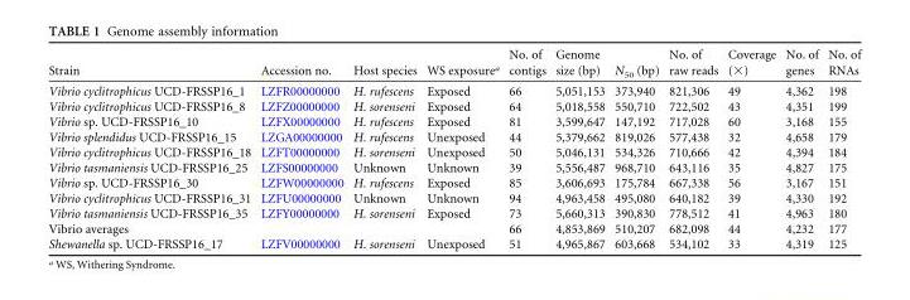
<table><thead><tr><td>Strain</td><td>Accession no.</td><td>Host species</td><td>WS exposure<sup>a</sup></td><td>No. of contigs</td><td>Genome size (bp)</td><td>N<sub>50</sub> (bp)</td><td>No. of raw reads</td><td>Coverage (×)</td><td>No. of genes</td><td>No. of RNAs</td></tr></thead><tbody><tr><td>Vibrio cyclitrophicus UCD-FRSSP16_1</td><td>LZFR00000000</td><td>H. rufescens</td><td>Exposed</td><td>66</td><td>5,051,153</td><td>373,940</td><td>821,306</td><td>49</td><td>4,362</td><td>198</td></tr><tr><td>Vibrio cyclitrophicus UCD-FRSSP16_8</td><td>LZFZ00000000</td><td>H. sorenseni</td><td>Exposed</td><td>64</td><td>5,018,558</td><td>550,710</td><td>722,502</td><td>43</td><td>4,351</td><td>199</td></tr><tr><td>Vibrio sp. UCD-FRSSP16_10</td><td>LZFX00000000</td><td>H. rufescens</td><td>Exposed</td><td>81</td><td>3,599,647</td><td>147,192</td><td>717,028</td><td>60</td><td>3,168</td><td>155</td></tr><tr><td>Vibrio splendidus UCD-FRSSP16_15</td><td>LZGA00000000</td><td>H. rufescens</td><td>Unexposed</td><td>44</td><td>5,379,662</td><td>819,026</td><td>577,438</td><td>32</td><td>4,658</td><td>179</td></tr><tr><td>Vibrio cyclitrophicus UCD-FRSSP16_18</td><td>LZFT00000000</td><td>H. sorenseni</td><td>Unexposed</td><td>50</td><td>5,046,131</td><td>534,326</td><td>710,666</td><td>42</td><td>4,394</td><td>184</td></tr><tr><td>Vibrio tasmaniensis UCD-FRSSP16_25</td><td>LZFS00000000</td><td>Unknown</td><td>Unknown</td><td>39</td><td>5,556,487</td><td>968,710</td><td>643,116</td><td>35</td><td>4,827</td><td>175</td></tr><tr><td>Vibrio sp. UCD-FRSSP16_30</td><td>LZFW00000000</td><td>H. rufescens</td><td>Exposed</td><td>85</td><td>3,606,693</td><td>175,784</td><td>667,338</td><td>56</td><td>3,167</td><td>151</td></tr><tr><td>Vibrio cyclitrophicus UCD-FRSSP16_31</td><td>LZFU00000000</td><td>Unknown</td><td>Unknown</td><td>94</td><td>4,963,458</td><td>495,080</td><td>640,182</td><td>39</td><td>4,330</td><td>192</td></tr><tr><td>Vibrio tasmaniensis UCD-FRSSP16_35</td><td>LZFY00000000</td><td>H. sorenseni</td><td>Exposed</td><td>73</td><td>5,660,313</td><td>390,830</td><td>778,512</td><td>41</td><td>4,963</td><td>180</td></tr><tr><td>Vibrio averages</td><td></td><td></td><td></td><td>66</td><td>4,853,869</td><td>510,207</td><td>682,098</td><td>44</td><td>4,232</td><td>177</td></tr><tr><td>Shewanella sp. UCD-FRSSP16_17</td><td>LZFV00000000</td><td>H. sorenseni</td><td>Unexposed</td><td>51</td><td>4,965,867</td><td>603,668</td><td>534,102</td><td>33</td><td>4,319</td><td>125</td></tr></tbody></table>